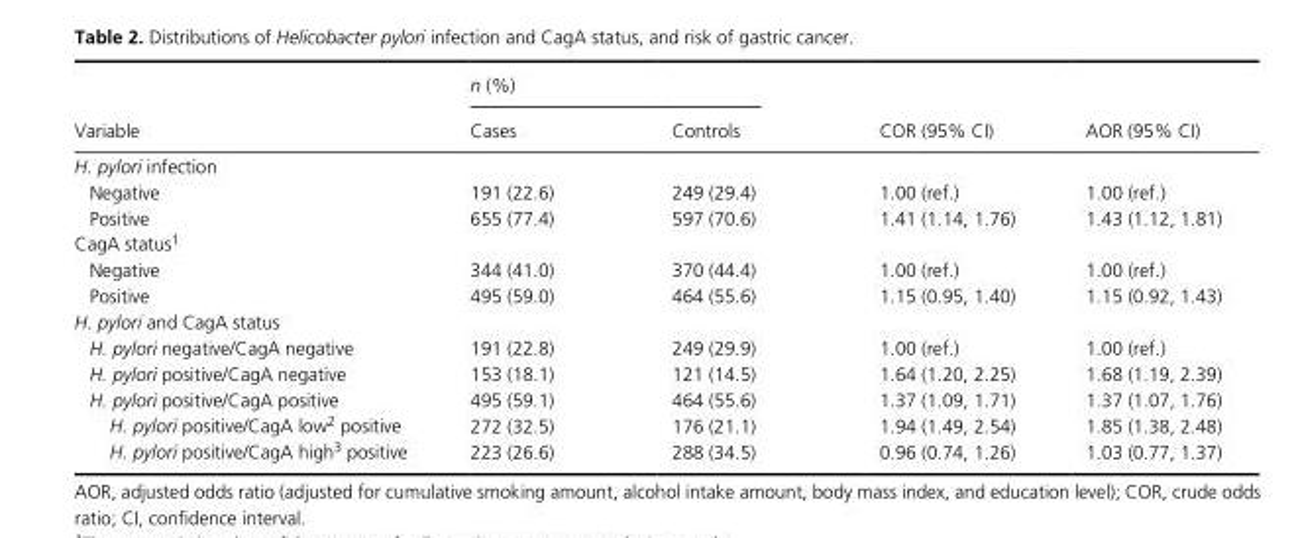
<table><thead><tr><td rowspan="2">Variable</td><td colspan="2">n (%)</td><td rowspan="2">COR (95% CI)</td><td rowspan="2">AOR (95% CI)</td></tr><tr><td>Cases</td><td>Controls</td></tr></thead><tbody><tr><td colspan="5">H. pylori infection</td></tr><tr><td>Negative</td><td>191 (22.6)</td><td>249 (29.4)</td><td>1.00 (ref.)</td><td>1.00 (ref.)</td></tr><tr><td>Positive</td><td>655 (77.4)</td><td>597 (70.6)</td><td>1.41 (1.14, 1.76)</td><td>1.43 (1.12, 1.81)</td></tr><tr><td colspan="5">CagA status1</td></tr><tr><td>Negative</td><td>344 (41.0)</td><td>370 (44.4)</td><td>1.00 (ref.)</td><td>1.00 (ref.)</td></tr><tr><td>Positive</td><td>495 (59.0)</td><td>464 (55.6)</td><td>1.15 (0.95, 1.40)</td><td>1.15 (0.92, 1.43)</td></tr><tr><td colspan="5">H. pylori and CagA status</td></tr><tr><td>H. pylori negative/CagA negative</td><td>191 (22.8)</td><td>249 (29.9)</td><td>1.00 (ref.)</td><td>1.00 (ref.)</td></tr><tr><td>H. pylori positive/CagA negative</td><td>153 (18.1)</td><td>121 (14.5)</td><td>1.64 (1.20, 2.25)</td><td>1.68 (1.19, 2.39)</td></tr><tr><td>H. pylori positive/CagA positive</td><td>495 (59.1)</td><td>464 (55.6)</td><td>1.37 (1.09, 1.71)</td><td>1.37 (1.07, 1.76)</td></tr><tr><td>H. pylori positive/CagA low2 positive</td><td>272 (32.5)</td><td>176 (21.1)</td><td>1.94 (1.49, 2.54)</td><td>1.85 (1.38, 2.48)</td></tr><tr><td>H. pylori positive/CagA high3 positive</td><td>223 (26.6)</td><td>288 (34.5)</td><td>0.96 (0.74, 1.26)</td><td>1.03 (0.77, 1.37)</td></tr></tbody></table>